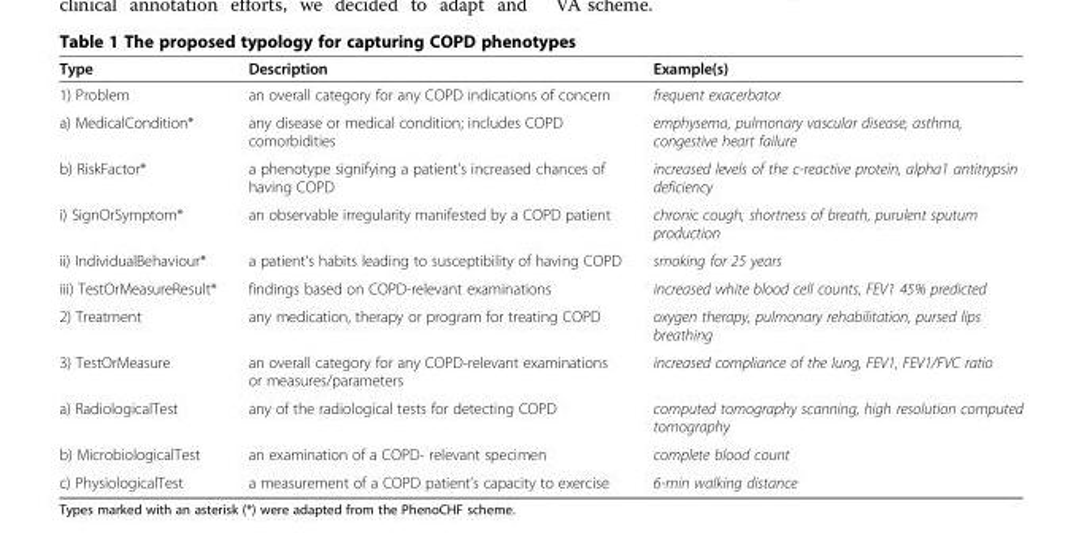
<table><thead><tr><td>Type</td><td>Description</td><td>Example(s)</td></tr></thead><tbody><tr><td>1) Problem</td><td>an overall category for any COPD indications of concern</td><td>frequent exacerbator</td></tr><tr><td>a) MedicalCondition*</td><td>any disease or medical condition; includes COPD comorbidities</td><td>emphysema, pulmonary vascular disease, asthma, congestive heart failure</td></tr><tr><td>b) RiskFactor*</td><td>a phenotype signifying a patient’s increased chances of having COPD</td><td>increased levels of the c-reactive protein, alpha1 antitrypsin deficiency</td></tr><tr><td>i) SignOrSymptom*</td><td>an observable irregularity manifested by a COPD patient</td><td>chronic cough, shortness of breath, purulent sputum production</td></tr><tr><td>ii) IndividualBehaviour*</td><td>a patient’s habits leading to susceptibility of having COPD</td><td>smoking for 25 years</td></tr><tr><td>iii) TestOrMeasureResult*</td><td>findings based on COPD-relevant examinations</td><td>increased white blood cell counts, FEV1 45% predicted</td></tr><tr><td>2) Treatment</td><td>any medication, therapy or program for treating COPD</td><td>oxygen therapy, pulmonary rehabilitation, pursed lips breathing</td></tr><tr><td>3) TestOrMeasure</td><td>an overall category for any COPD-relevant examinations or measures/parameters</td><td>increased compliance of the lung, FEV1, FEV1/FVC ratio</td></tr><tr><td>a) RadiologicalTest</td><td>any of the radiological tests for detecting COPD</td><td>computed tomography scanning, high resolution computed tomography</td></tr><tr><td>b) MicrobiologicalTest</td><td>an examination of a COPD- relevant specimen</td><td>complete blood count</td></tr><tr><td>c) PhysiologicalTest</td><td>a measurement of a COPD patient’s capacity to exercise</td><td>6-min walking distance</td></tr></tbody></table>